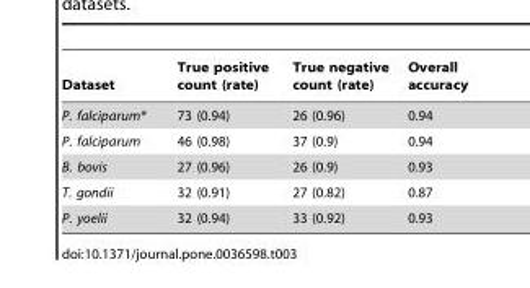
<table><thead><tr><td>Dataset</td><td>True positive count (rate)</td><td>True negative count (rate)</td><td>Overall accuracy</td></tr></thead><tbody><tr><td>P. falciparum*</td><td>73 (0.94)</td><td>26 (0.96)</td><td>0.94</td></tr><tr><td>P. falciparum</td><td>46 (0.98)</td><td>37 (0.9)</td><td>0.94</td></tr><tr><td>B. bovis</td><td>27 (0.96)</td><td>26 (0.9)</td><td>0.93</td></tr><tr><td>T. gondii</td><td>32 (0.91)</td><td>27 (0.82)</td><td>0.87</td></tr><tr><td>P. yoelii</td><td>32 (0.94)</td><td>33 (0.92)</td><td>0.93</td></tr></tbody></table>